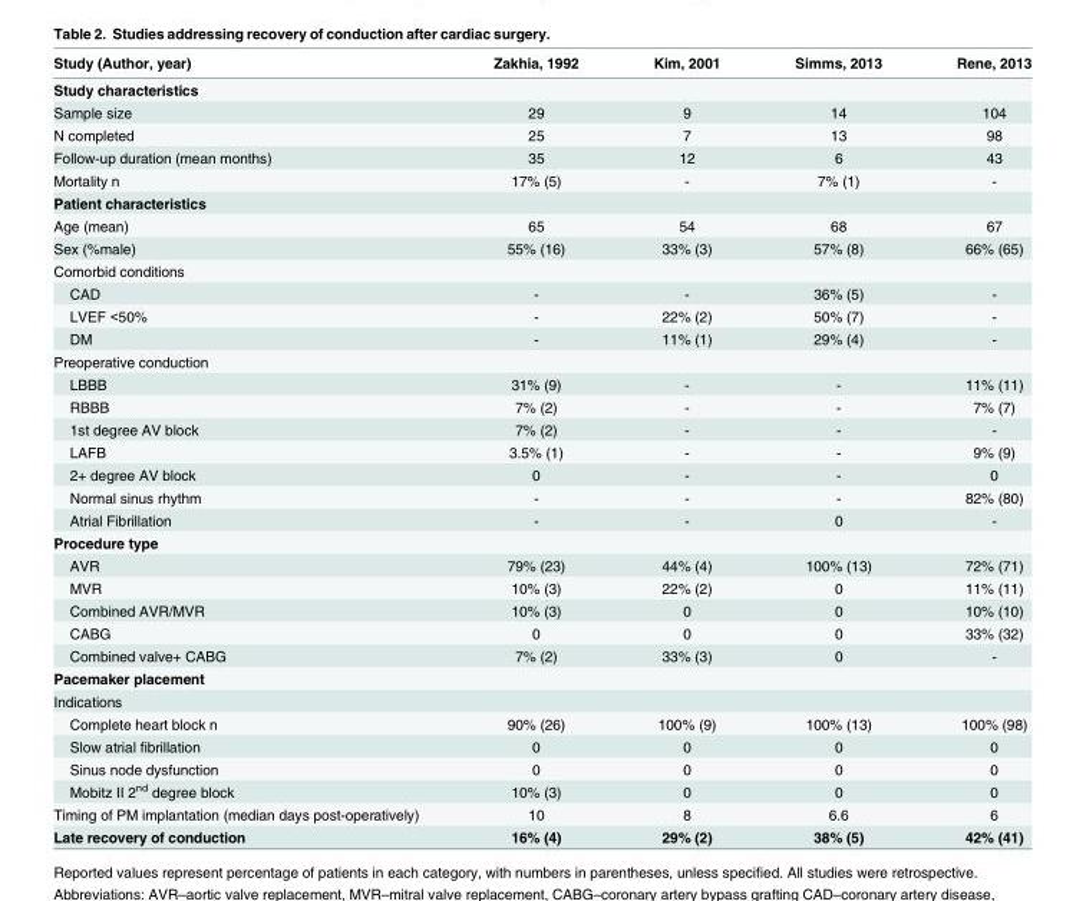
<table><thead><tr><td>Study (Author, year)</td><td>Zakhia, 1992</td><td>Kim, 2001</td><td>Simms, 2013</td><td>Rene, 2013</td></tr></thead><tbody><tr><td colspan="5">Study characteristics</td></tr><tr><td>Sample size</td><td>29</td><td>9</td><td>14</td><td>104</td></tr><tr><td>N completed</td><td>25</td><td>7</td><td>13</td><td>98</td></tr><tr><td>Follow-up duration (mean months)</td><td>35</td><td>12</td><td>6</td><td>43</td></tr><tr><td>Mortality n</td><td>17% (5)</td><td>-</td><td>7% (1)</td><td>-</td></tr><tr><td colspan="5">Patient characteristics</td></tr><tr><td>Age (mean)</td><td>65</td><td>54</td><td>68</td><td>67</td></tr><tr><td>Sex (%male)</td><td>55% (16)</td><td>33% (3)</td><td>57% (8)</td><td>66% (65)</td></tr><tr><td colspan="5">Comorbid conditions</td></tr><tr><td>CAD</td><td>-</td><td>-</td><td>36% (5)</td><td>-</td></tr><tr><td>LVEF &lt;50%</td><td>-</td><td>22% (2)</td><td>50% (7)</td><td>-</td></tr><tr><td>DM</td><td>-</td><td>11% (1)</td><td>29% (4)</td><td>-</td></tr><tr><td colspan="5">Preoperative conduction</td></tr><tr><td>LBBB</td><td>31% (9)</td><td>-</td><td>-</td><td>11% (11)</td></tr><tr><td>RBBB</td><td>7% (2)</td><td>-</td><td>-</td><td>7% (7)</td></tr><tr><td>1st degree AV block</td><td>7% (2)</td><td>-</td><td>-</td><td>-</td></tr><tr><td>LAFB</td><td>3.5% (1)</td><td>-</td><td>-</td><td>9% (9)</td></tr><tr><td>2+ degree AV block</td><td>0</td><td>-</td><td>-</td><td>0</td></tr><tr><td>Normal sinus rhythm</td><td>-</td><td>-</td><td>-</td><td>82% (80)</td></tr><tr><td>Atrial Fibrillation</td><td>-</td><td>-</td><td>0</td><td>-</td></tr><tr><td colspan="5">Procedure type</td></tr><tr><td>AVR</td><td>79% (23)</td><td>44% (4)</td><td>100% (13)</td><td>72% (71)</td></tr><tr><td>MVR</td><td>10% (3)</td><td>22% (2)</td><td>0</td><td>11% (11)</td></tr><tr><td>Combined AVR/MVR</td><td>10% (3)</td><td>0</td><td>0</td><td>10% (10)</td></tr><tr><td>CABG</td><td>0</td><td>0</td><td>0</td><td>33% (32)</td></tr><tr><td>Combined valve+ CABG</td><td>7% (2)</td><td>33% (3)</td><td>0</td><td>-</td></tr><tr><td colspan="5">Pacemaker placement</td></tr><tr><td colspan="5">Indications</td></tr><tr><td>Complete heart block n</td><td>90% (26)</td><td>100% (9)</td><td>100% (13)</td><td>100% (98)</td></tr><tr><td>Slow atrial fibrillation</td><td>0</td><td>0</td><td>0</td><td>0</td></tr><tr><td>Sinus node dysfunction</td><td>0</td><td>0</td><td>0</td><td>0</td></tr><tr><td>Mobitz II 2<sup>nd</sup> degree block</td><td>10% (3)</td><td>0</td><td>0</td><td>0</td></tr><tr><td>Timing of PM implantation (median days post-operatively)</td><td>10</td><td>8</td><td>6.6</td><td>6</td></tr><tr><td>Late recovery of conduction</td><td>16% (4)</td><td>29% (2)</td><td>38% (5)</td><td>42% (41)</td></tr></tbody></table>